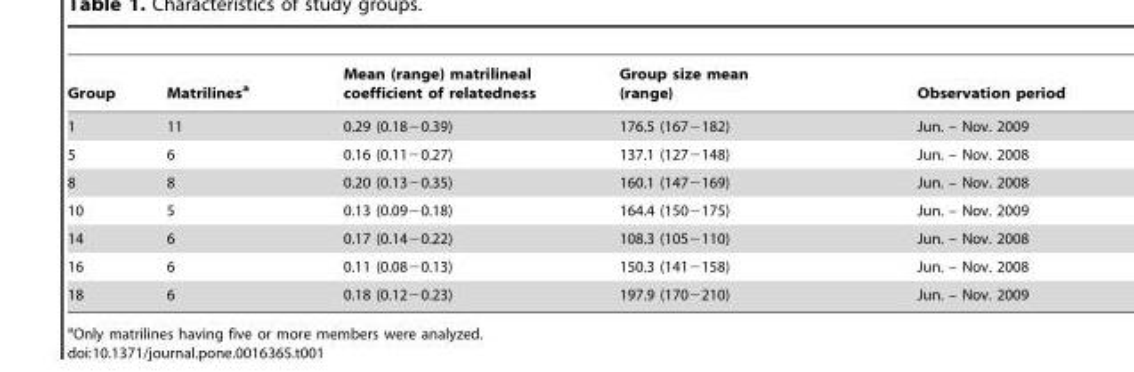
<table><thead><tr><td>Group</td><td>Matrilines<sup>a</sup></td><td>Mean (range) matrilineal coefficient of relatedness</td><td>Group size mean (range)</td><td>Observation period</td></tr></thead><tbody><tr><td>1</td><td>11</td><td>0.29 (0.18−0.39)</td><td>176.5 (167−182)</td><td>Jun. – Nov. 2009</td></tr><tr><td>5</td><td>6</td><td>0.16 (0.11−0.27)</td><td>137.1 (127−148)</td><td>Jun. – Nov. 2008</td></tr><tr><td>8</td><td>8</td><td>0.20 (0.13−0.35)</td><td>160.1 (147−169)</td><td>Jun. – Nov. 2008</td></tr><tr><td>10</td><td>5</td><td>0.13 (0.09−0.18)</td><td>164.4 (150−175)</td><td>Jun. – Nov. 2009</td></tr><tr><td>14</td><td>6</td><td>0.17 (0.14−0.22)</td><td>108.3 (105−110)</td><td>Jun. – Nov. 2008</td></tr><tr><td>16</td><td>6</td><td>0.11 (0.08−0.13)</td><td>150.3 (141−158)</td><td>Jun. – Nov. 2008</td></tr><tr><td>18</td><td>6</td><td>0.18 (0.12−0.23)</td><td>197.9 (170−210)</td><td>Jun. – Nov. 2009</td></tr></tbody></table>